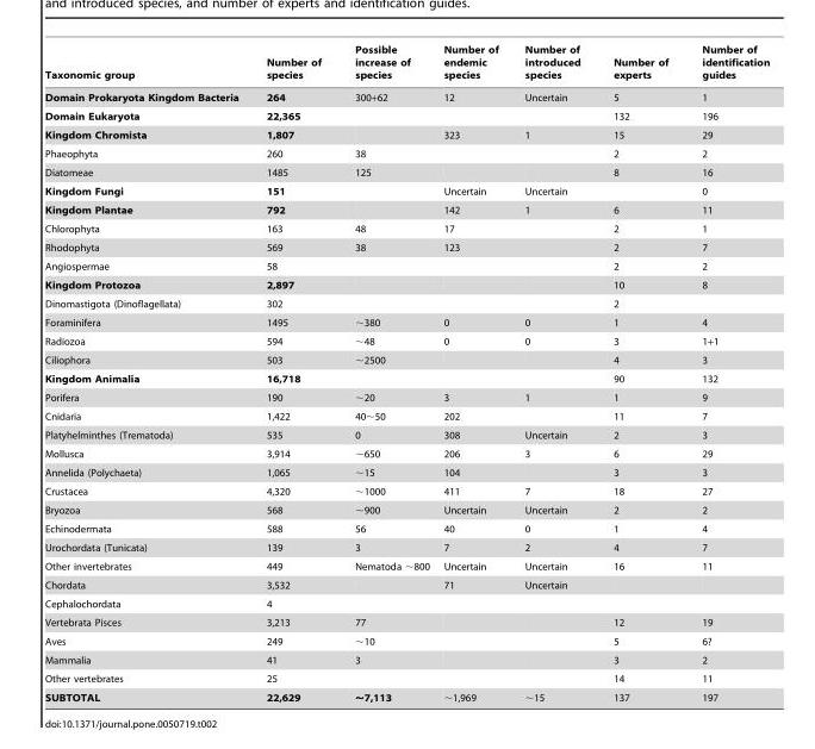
<table><thead><tr><td>Taxonomic group</td><td>Number of species</td><td>Possible increase of species</td><td>Number of endemic species</td><td>Number of introduced species</td><td>Number of experts</td><td>Number of identification guides</td></tr></thead><tbody><tr><td>Domain Prokaryota Kingdom Bacteria</td><td>264</td><td>300+62</td><td>12</td><td>Uncertain</td><td>5</td><td>1</td></tr><tr><td>Domain Eukaryota</td><td>22,365</td><td></td><td></td><td></td><td>132</td><td>196</td></tr><tr><td>Kingdom Chromista</td><td>1,807</td><td></td><td>323</td><td>1</td><td>15</td><td>29</td></tr><tr><td>Phaeophyta</td><td>260</td><td>38</td><td></td><td></td><td>2</td><td>2</td></tr><tr><td>Diatomeae</td><td>1485</td><td>125</td><td></td><td></td><td>8</td><td>16</td></tr><tr><td>Kingdom Fungi</td><td>151</td><td></td><td>Uncertain</td><td>Uncertain</td><td></td><td>0</td></tr><tr><td>Kingdom Plantae</td><td>792</td><td></td><td>142</td><td>1</td><td>6</td><td>11</td></tr><tr><td>Chlorophyta</td><td>163</td><td>48</td><td>17</td><td></td><td>2</td><td>1</td></tr><tr><td>Rhodophyta</td><td>569</td><td>38</td><td>123</td><td></td><td>2</td><td>7</td></tr><tr><td>Angiospermae</td><td>58</td><td></td><td></td><td></td><td>2</td><td>2</td></tr><tr><td>Kingdom Protozoa</td><td>2,897</td><td></td><td></td><td></td><td>10</td><td>8</td></tr><tr><td>Dinomastigota (Dinoflagellata)</td><td>302</td><td></td><td></td><td></td><td>2</td><td></td></tr><tr><td>Foraminifera</td><td>1495</td><td>∼380</td><td>0</td><td>0</td><td>1</td><td>4</td></tr><tr><td>Radiozoa</td><td>594</td><td>∼48</td><td>0</td><td>0</td><td>3</td><td>1+1</td></tr><tr><td>Ciliophora</td><td>503</td><td>∼2500</td><td></td><td></td><td>4</td><td>3</td></tr><tr><td>Kingdom Animalia</td><td>16,718</td><td></td><td></td><td></td><td>90</td><td>132</td></tr><tr><td>Porifera</td><td>190</td><td>∼20</td><td>3</td><td>1</td><td>1</td><td>9</td></tr><tr><td>Cnidaria</td><td>1,422</td><td>40∼50</td><td>202</td><td></td><td>11</td><td>7</td></tr><tr><td>Platyhelminthes (Trematoda)</td><td>535</td><td>0</td><td>308</td><td>Uncertain</td><td>2</td><td>3</td></tr><tr><td>Mollusca</td><td>3,914</td><td>∼650</td><td>206</td><td>3</td><td>6</td><td>29</td></tr><tr><td>Annelida (Polychaeta)</td><td>1,065</td><td>∼15</td><td>104</td><td></td><td>3</td><td>3</td></tr><tr><td>Crustacea</td><td>4,320</td><td>∼1000</td><td>411</td><td>7</td><td>18</td><td>27</td></tr><tr><td>Bryozoa</td><td>568</td><td>∼900</td><td>Uncertain</td><td>Uncertain</td><td>2</td><td>2</td></tr><tr><td>Echinodermata</td><td>588</td><td>56</td><td>40</td><td>0</td><td>1</td><td>4</td></tr><tr><td>Urochordata (Tunicata)</td><td>139</td><td>3</td><td>7</td><td>2</td><td>4</td><td>7</td></tr><tr><td>Other invertebrates</td><td>449</td><td>Nematoda ∼800</td><td>Uncertain</td><td>Uncertain</td><td>16</td><td>11</td></tr><tr><td>Chordata</td><td>3,532</td><td></td><td>71</td><td>Uncertain</td><td></td><td></td></tr><tr><td>Cephalochordata</td><td>4</td><td></td><td></td><td></td><td></td><td></td></tr><tr><td>Vertebrata Pisces</td><td>3,213</td><td>77</td><td></td><td></td><td>12</td><td>19</td></tr><tr><td>Aves</td><td>249</td><td>∼10</td><td></td><td></td><td>5</td><td>6?</td></tr><tr><td>Mammalia</td><td>41</td><td>3</td><td></td><td></td><td>3</td><td>2</td></tr><tr><td>Other vertebrates</td><td>25</td><td></td><td></td><td></td><td>14</td><td>11</td></tr><tr><td>SUBTOTAL</td><td>22,629</td><td>∼7,113</td><td>∼1,969</td><td>∼15</td><td>137</td><td>197</td></tr></tbody></table>